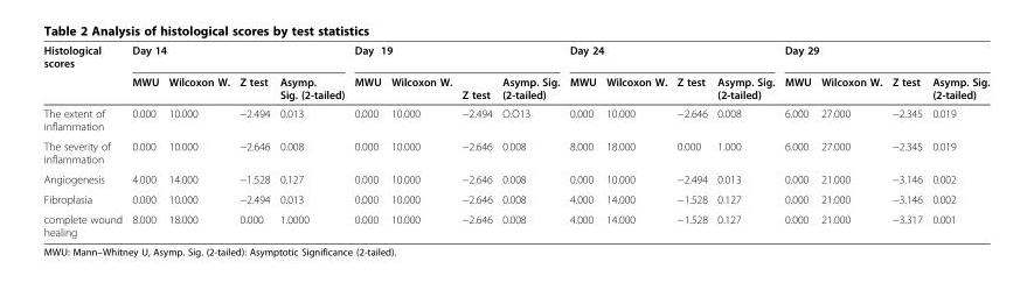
<table><thead><tr><td rowspan="2">Histological scores</td><td colspan="4">Day 14</td><td colspan="4">Day 19</td><td colspan="4">Day 24</td><td colspan="4">Day 29</td></tr><tr><td>MWU</td><td>Wilcoxon W.</td><td>Z test</td><td>Asymp. Sig. (2-tailed)</td><td>MWU</td><td>Wilcoxon W.</td><td>Z test</td><td>Asymp. Sig. (2-tailed)</td><td>MWU</td><td>Wilcoxon W.</td><td>Z test</td><td>Asymp. Sig. (2-tailed)</td><td>MWU</td><td>Wilcoxon W.</td><td>Z test</td><td>Asymp. Sig. (2-tailed)</td></tr></thead><tbody><tr><td>The extent of inflammation</td><td>0.000</td><td>10.000</td><td>−2.494</td><td>0.013</td><td>0.000</td><td>10.000</td><td>−2.494</td><td>O.O13</td><td>0.000</td><td>10.000</td><td>−2.646</td><td>0.008</td><td>6.000</td><td>27.000</td><td>−2.345</td><td>0.019</td></tr><tr><td>The severity of inflammation</td><td>0.000</td><td>10.000</td><td>−2.646</td><td>0.008</td><td>0.000</td><td>10.000</td><td>−2.646</td><td>0.008</td><td>8.000</td><td>18.000</td><td>0.000</td><td>1.000</td><td>6.000</td><td>27.000</td><td>−2.345</td><td>0.019</td></tr><tr><td>Angiogenesis</td><td>4.000</td><td>14.000</td><td>−1.528</td><td>0.127</td><td>0.000</td><td>10.000</td><td>−2.646</td><td>0.008</td><td>0.000</td><td>10.000</td><td>−2.494</td><td>0.013</td><td>0.000</td><td>21.000</td><td>−3.146</td><td>0.002</td></tr><tr><td>Fibroplasia</td><td>0.000</td><td>10.000</td><td>−2.494</td><td>0.013</td><td>0.000</td><td>10.000</td><td>−2.646</td><td>0.008</td><td>4.000</td><td>14.000</td><td>−1.528</td><td>0.127</td><td>0.000</td><td>21.000</td><td>−3.146</td><td>0.002</td></tr><tr><td>complete wound healing</td><td>8.000</td><td>18.000</td><td>0.000</td><td>1.0000</td><td>0.000</td><td>10.000</td><td>−2.646</td><td>0.008</td><td>4.000</td><td>14.000</td><td>−1.528</td><td>0.127</td><td>0.000</td><td>21.000</td><td>−3.317</td><td>0.001</td></tr></tbody></table>